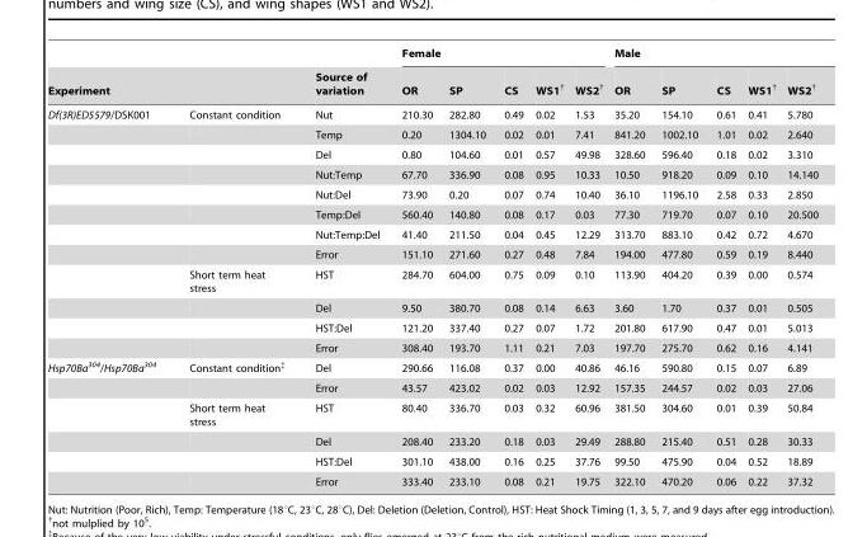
<table><thead><tr><td></td><td></td><td rowspan="2">Source of variation</td><td colspan="5">Female</td><td colspan="5">Male</td></tr><tr><td colspan="2">Experiment</td><td>OR</td><td>SP</td><td>CS</td><td>WS1†</td><td>WS2†</td><td>OR</td><td>SP</td><td>CS</td><td>WS1†</td><td>WS2†</td></tr></thead><tbody><tr><td rowspan="12">Df(3R)ED5579/DSK001</td><td>Constant condition</td><td>Nut</td><td>210.30</td><td>282.80</td><td>0.49</td><td>0.02</td><td>1.53</td><td>35.20</td><td>154.10</td><td>0.61</td><td>0.41</td><td>5.780</td></tr><tr><td></td><td>Temp</td><td>0.20</td><td>1304.10</td><td>0.02</td><td>0.01</td><td>7.41</td><td>841.20</td><td>1002.10</td><td>1.01</td><td>0.02</td><td>2.640</td></tr><tr><td></td><td>Del</td><td>0.80</td><td>104.60</td><td>0.01</td><td>0.57</td><td>49.98</td><td>328.60</td><td>596.40</td><td>0.18</td><td>0.02</td><td>3.310</td></tr><tr><td></td><td>Nut:Temp</td><td>67.70</td><td>336.90</td><td>0.08</td><td>0.95</td><td>10.33</td><td>10.50</td><td>918.20</td><td>0.09</td><td>0.10</td><td>14.140</td></tr><tr><td></td><td>Nut:Del</td><td>73.90</td><td>0.20</td><td>0.07</td><td>0.74</td><td>10.40</td><td>36.10</td><td>1196.10</td><td>2.58</td><td>0.33</td><td>2.850</td></tr><tr><td></td><td>Temp:Del</td><td>560.40</td><td>140.80</td><td>0.08</td><td>0.17</td><td>0.03</td><td>77.30</td><td>719.70</td><td>0.07</td><td>0.10</td><td>20.500</td></tr><tr><td></td><td>Nut:Temp:Del</td><td>41.40</td><td>211.50</td><td>0.04</td><td>0.45</td><td>12.29</td><td>313.70</td><td>883.10</td><td>0.42</td><td>0.72</td><td>4.670</td></tr><tr><td></td><td>Error</td><td>151.10</td><td>271.60</td><td>0.27</td><td>0.48</td><td>7.84</td><td>194.00</td><td>477.80</td><td>0.59</td><td>0.19</td><td>8.440</td></tr><tr><td>Short term heat stress</td><td>HST</td><td>284.70</td><td>604.00</td><td>0.75</td><td>0.09</td><td>0.10</td><td>113.90</td><td>404.20</td><td>0.39</td><td>0.00</td><td>0.574</td></tr><tr><td></td><td>Del</td><td>9.50</td><td>380.70</td><td>0.08</td><td>0.14</td><td>6.63</td><td>3.60</td><td>1.70</td><td>0.37</td><td>0.01</td><td>0.505</td></tr><tr><td></td><td>HST:Del</td><td>121.20</td><td>337.40</td><td>0.27</td><td>0.07</td><td>1.72</td><td>201.80</td><td>617.90</td><td>0.47</td><td>0.01</td><td>5.013</td></tr><tr><td></td><td>Error</td><td>308.40</td><td>193.70</td><td>1.11</td><td>0.21</td><td>7.03</td><td>197.70</td><td>275.70</td><td>0.62</td><td>0.16</td><td>4.141</td></tr><tr><td rowspan="6">Hsp70Ba<sup>304</sup>/Hsp70Ba<sup>304</sup></td><td>Constant condition‡</td><td>Del</td><td>290.66</td><td>116.08</td><td>0.37</td><td>0.00</td><td>40.86</td><td>46.16</td><td>590.80</td><td>0.15</td><td>0.07</td><td>6.89</td></tr><tr><td></td><td>Error</td><td>43.57</td><td>423.02</td><td>0.02</td><td>0.03</td><td>12.92</td><td>157.35</td><td>244.57</td><td>0.02</td><td>0.03</td><td>27.06</td></tr><tr><td>Short term heat stress</td><td>HST</td><td>80.40</td><td>336.70</td><td>0.03</td><td>0.32</td><td>60.96</td><td>381.50</td><td>304.60</td><td>0.01</td><td>0.39</td><td>50.84</td></tr><tr><td></td><td>Del</td><td>208.40</td><td>233.20</td><td>0.18</td><td>0.03</td><td>29.49</td><td>288.80</td><td>215.40</td><td>0.51</td><td>0.28</td><td>30.33</td></tr><tr><td></td><td>HST:Del</td><td>301.10</td><td>438.00</td><td>0.16</td><td>0.25</td><td>37.76</td><td>99.50</td><td>475.90</td><td>0.04</td><td>0.52</td><td>18.89</td></tr><tr><td></td><td>Error</td><td>333.40</td><td>233.10</td><td>0.08</td><td>0.21</td><td>19.75</td><td>322.10</td><td>470.20</td><td>0.06</td><td>0.22</td><td>37.32</td></tr></tbody></table>